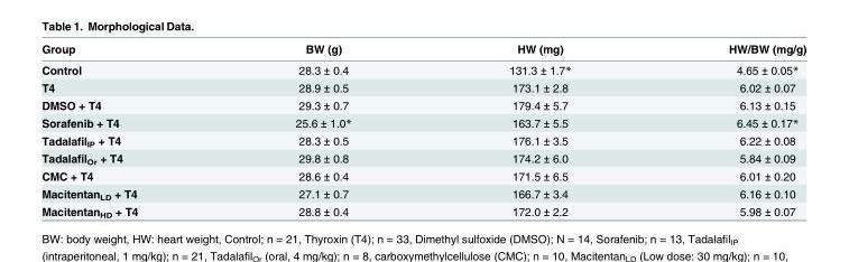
<table><thead><tr><td>Group</td><td>BW (g)</td><td>HW (mg)</td><td>HW/BW (mg/g)</td></tr></thead><tbody><tr><td>Control</td><td>28.3 ± 0.4</td><td>131.3 ± 1.7*</td><td>4.65 ± 0.05*</td></tr><tr><td>T4</td><td>28.9 ± 0.5</td><td>173.1 ± 2.8</td><td>6.02 ± 0.07</td></tr><tr><td>DMSO + T4</td><td>29.3 ± 0.7</td><td>179.4 ± 5.7</td><td>6.13 ± 0.15</td></tr><tr><td>Sorafenib + T4</td><td>25.6 ± 1.0*</td><td>163.7 ± 5.5</td><td>6.45 ± 0.17*</td></tr><tr><td>Tadalafil<sub>IP</sub> + T4</td><td>28.3 ± 0.5</td><td>176.1 ± 3.5</td><td>6.22 ± 0.08</td></tr><tr><td>Tadalafil<sub>Or</sub> + T4</td><td>29.8 ± 0.8</td><td>174.2 ± 6.0</td><td>5.84 ± 0.09</td></tr><tr><td>CMC + T4</td><td>28.6 ± 0.4</td><td>171.5 ± 6.5</td><td>6.01 ± 0.20</td></tr><tr><td>Macitentan<sub>LD</sub> + T4</td><td>27.1 ± 0.7</td><td>166.7 ± 3.4</td><td>6.16 ± 0.10</td></tr><tr><td>Macitentan<sub>HD</sub> + T4</td><td>28.8 ± 0.4</td><td>172.0 ± 2.2</td><td>5.98 ± 0.07</td></tr></tbody></table>